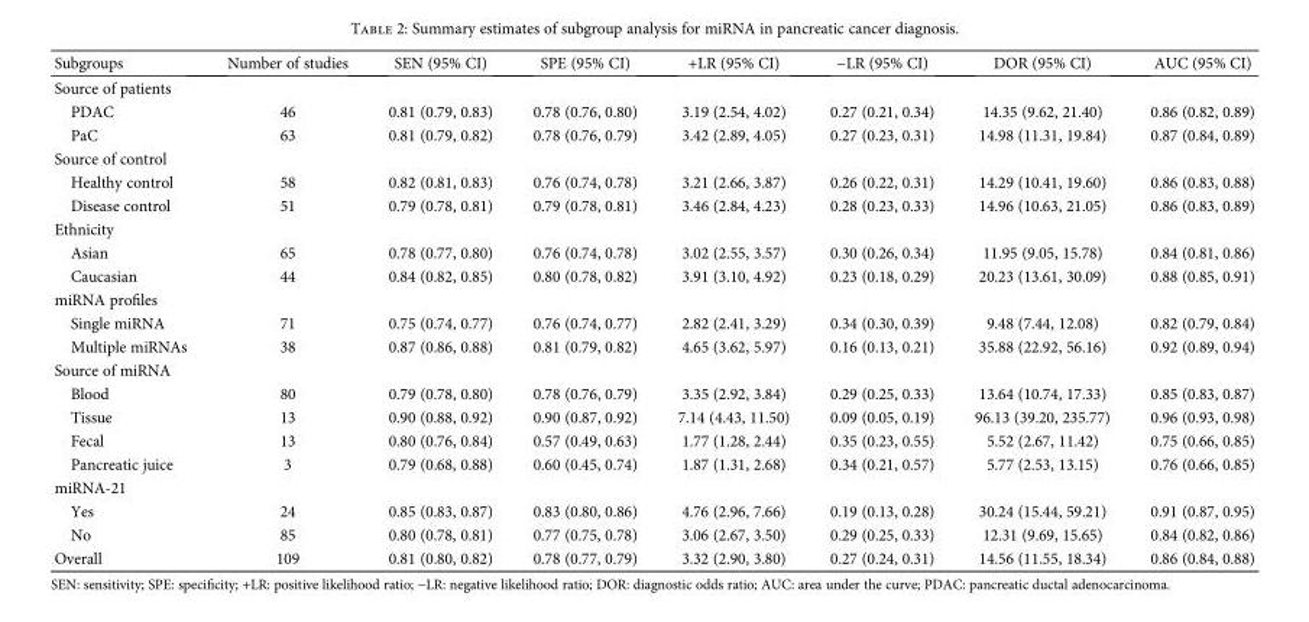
<table><thead><tr><td>Subgroups</td><td>Number of studies</td><td>SEN (95% CI)</td><td>SPE (95% CI)</td><td>+LR (95% CI)</td><td>−LR (95% CI)</td><td>DOR (95% CI)</td><td>AUC (95% CI)</td></tr></thead><tbody><tr><td colspan="8">Source of patients</td></tr><tr><td>PDAC</td><td>46</td><td>0.81 (0.79, 0.83)</td><td>0.78 (0.76, 0.80)</td><td>3.19 (2.54, 4.02)</td><td>0.27 (0.21, 0.34)</td><td>14.35 (9.62, 21.40)</td><td>0.86 (0.82, 0.89)</td></tr><tr><td>PaC</td><td>63</td><td>0.81 (0.79, 0.82)</td><td>0.78 (0.76, 0.79)</td><td>3.42 (2.89, 4.05)</td><td>0.27 (0.23, 0.31)</td><td>14.98 (11.31, 19.84)</td><td>0.87 (0.84, 0.89)</td></tr><tr><td colspan="8">Source of control</td></tr><tr><td>Healthy control</td><td>58</td><td>0.82 (0.81, 0.83)</td><td>0.76 (0.74, 0.78)</td><td>3.21 (2.66, 3.87)</td><td>0.26 (0.22, 0.31)</td><td>14.29 (10.41, 19.60)</td><td>0.86 (0.83, 0.88)</td></tr><tr><td>Disease control</td><td>51</td><td>0.79 (0.78, 0.81)</td><td>0.79 (0.78, 0.81)</td><td>3.46 (2.84, 4.23)</td><td>0.28 (0.23, 0.33)</td><td>14.96 (10.63, 21.05)</td><td>0.86 (0.83, 0.89)</td></tr><tr><td colspan="8">Ethnicity</td></tr><tr><td>Asian</td><td>65</td><td>0.78 (0.77, 0.80)</td><td>0.76 (0.74, 0.78)</td><td>3.02 (2.55, 3.57)</td><td>0.30 (0.26, 0.34)</td><td>11.95 (9.05, 15.78)</td><td>0.84 (0.81, 0.86)</td></tr><tr><td>Caucasian</td><td>44</td><td>0.84 (0.82, 0.85)</td><td>0.80 (0.78, 0.82)</td><td>3.91 (3.10, 4.92)</td><td>0.23 (0.18, 0.29)</td><td>20.23 (13.61, 30.09)</td><td>0.88 (0.85, 0.91)</td></tr><tr><td colspan="8">miRNA profiles</td></tr><tr><td>Single miRNA</td><td>71</td><td>0.75 (0.74, 0.77)</td><td>0.76 (0.74, 0.77)</td><td>2.82 (2.41, 3.29)</td><td>0.34 (0.30, 0.39)</td><td>9.48 (7.44, 12.08)</td><td>0.82 (0.79, 0.84)</td></tr><tr><td>Multiple miRNAs</td><td>38</td><td>0.87 (0.86, 0.88)</td><td>0.81 (0.79, 0.82)</td><td>4.65 (3.62, 5.97)</td><td>0.16 (0.13, 0.21)</td><td>35.88 (22.92, 56.16)</td><td>0.92 (0.89, 0.94)</td></tr><tr><td colspan="8">Source of miRNA</td></tr><tr><td>Blood</td><td>80</td><td>0.79 (0.78, 0.80)</td><td>0.78 (0.76, 0.79)</td><td>3.35 (2.92, 3.84)</td><td>0.29 (0.25, 0.33)</td><td>13.64 (10.74, 17.33)</td><td>0.85 (0.83, 0.87)</td></tr><tr><td>Tissue</td><td>13</td><td>0.90 (0.88, 0.92)</td><td>0.90 (0.87, 0.92)</td><td>7.14 (4.43, 11.50)</td><td>0.09 (0.05, 0.19)</td><td>96.13 (39.20, 235.77)</td><td>0.96 (0.93, 0.98)</td></tr><tr><td>Fecal</td><td>13</td><td>0.80 (0.76, 0.84)</td><td>0.57 (0.49, 0.63)</td><td>1.77 (1.28, 2.44)</td><td>0.35 (0.23, 0.55)</td><td>5.52 (2.67, 11.42)</td><td>0.75 (0.66, 0.85)</td></tr><tr><td>Pancreatic juice</td><td>3</td><td>0.79 (0.68, 0.88)</td><td>0.60 (0.45, 0.74)</td><td>1.87 (1.31, 2.68)</td><td>0.34 (0.21, 0.57)</td><td>5.77 (2.53, 13.15)</td><td>0.76 (0.66, 0.85)</td></tr><tr><td colspan="8">miRNA-21</td></tr><tr><td>Yes</td><td>24</td><td>0.85 (0.83, 0.87)</td><td>0.83 (0.80, 0.86)</td><td>4.76 (2.96, 7.66)</td><td>0.19 (0.13, 0.28)</td><td>30.24 (15.44, 59.21)</td><td>0.91 (0.87, 0.95)</td></tr><tr><td>No</td><td>85</td><td>0.80 (0.78, 0.81)</td><td>0.77 (0.75, 0.78)</td><td>3.06 (2.67, 3.50)</td><td>0.29 (0.25, 0.33)</td><td>12.31 (9.69, 15.65)</td><td>0.84 (0.82, 0.86)</td></tr><tr><td>Overall</td><td>109</td><td>0.81 (0.80, 0.82)</td><td>0.78 (0.77, 0.79)</td><td>3.32 (2.90, 3.80)</td><td>0.27 (0.24, 0.31)</td><td>14.56 (11.55, 18.34)</td><td>0.86 (0.84, 0.88)</td></tr></tbody></table>